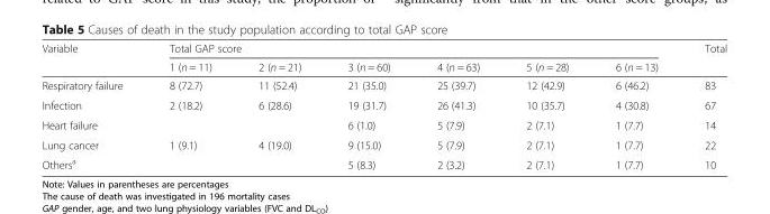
<table><thead><tr><td rowspan="2">Variable</td><td colspan="6">Total GAP score</td><td rowspan="2">Total</td></tr><tr><td>1 (n = 11)</td><td>2 (n = 21)</td><td>3 (n = 60)</td><td>4 (n = 63)</td><td>5 (n = 28)</td><td>6 (n = 13)</td></tr></thead><tbody><tr><td>Respiratory failure</td><td>8 (72.7)</td><td>11 (52.4)</td><td>21 (35.0)</td><td>25 (39.7)</td><td>12 (42.9)</td><td>6 (46.2)</td><td>83</td></tr><tr><td>Infection</td><td>2 (18.2)</td><td>6 (28.6)</td><td>19 (31.7)</td><td>26 (41.3)</td><td>10 (35.7)</td><td>4 (30.8)</td><td>67</td></tr><tr><td>Heart failure</td><td></td><td></td><td>6 (1.0)</td><td>5 (7.9)</td><td>2 (7.1)</td><td>1 (7.7)</td><td>14</td></tr><tr><td>Lung cancer</td><td>1 (9.1)</td><td>4 (19.0)</td><td>9 (15.0)</td><td>5 (7.9)</td><td>2 (7.1)</td><td>1 (7.7)</td><td>22</td></tr><tr><td>Others<sup>a</sup></td><td></td><td></td><td>5 (8.3)</td><td>2 (3.2)</td><td>2 (7.1)</td><td>1 (7.7)</td><td>10</td></tr></tbody></table>